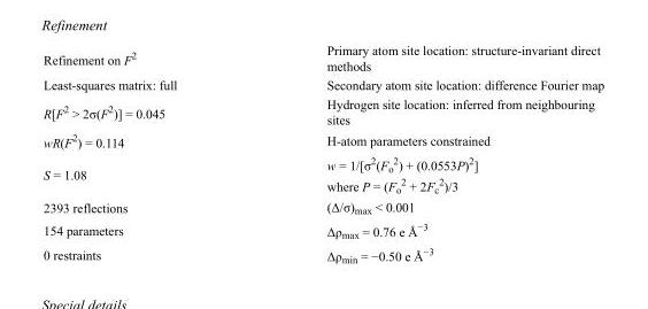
<table><tbody><tr><td>Refinement on F<sup>2</sup></td><td>Primary atom site location: structure-invariant direct methods</td></tr><tr><td>Least-squares matrix: full</td><td>Secondary atom site location: difference Fourier map</td></tr><tr><td>R[F<sup>2</sup> &gt; 2σ(F<sup>2</sup>)] = 0.045</td><td>Hydrogen site location: inferred from neighbouring sites</td></tr><tr><td>wR(F<sup>2</sup>) = 0.114</td><td>H-atom parameters constrained</td></tr><tr><td>S = 1.08</td><td>w = 1/[σ<sup>2</sup>(F<sub>o</sub> <sup>2</sup>) + (0.0553P)<sup>2</sup>] where P = (F<sub>o</sub> <sup>2</sup> + 2F<sub>c</sub> <sup>2</sup>)/3</td></tr><tr><td>2393 reflections</td><td>(Δ/σ)<sub>max</sub> &lt; 0.001</td></tr><tr><td>154 parameters</td><td>Δρ<sub>max</sub> = 0.76 e Å<sup>−3</sup></td></tr><tr><td>0 restraints</td><td>Δρ<sub>min</sub> = −0.50 e Å<sup>−3</sup></td></tr></tbody></table>